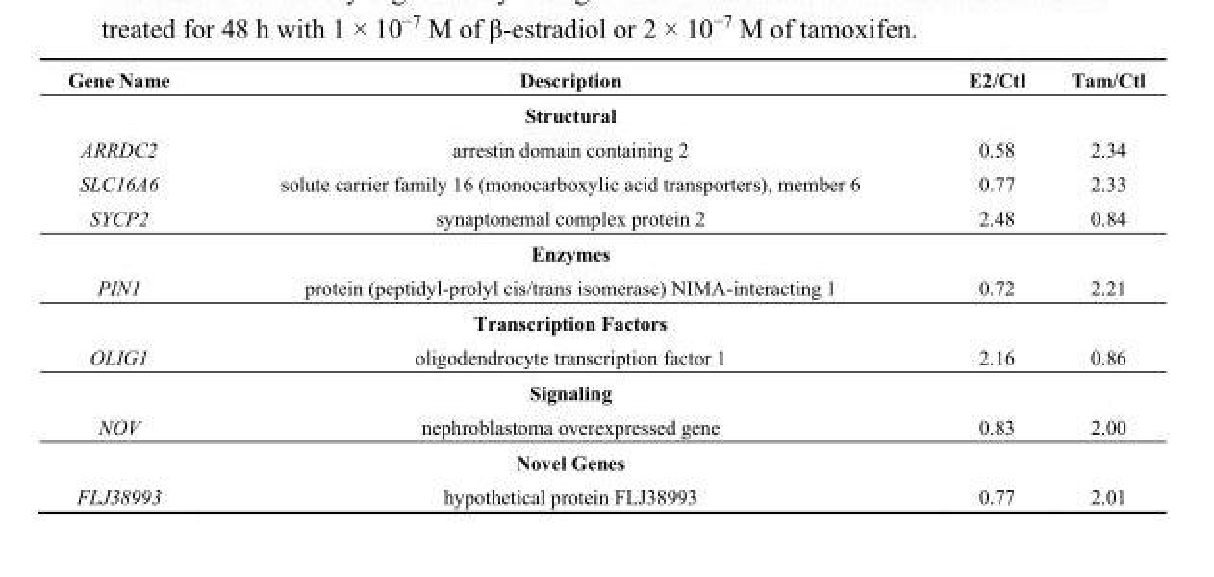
<table><thead><tr><td>Gene Name</td><td>Description</td><td>E2/Ctl</td><td>Tam/Ctl</td></tr></thead><tbody><tr><td></td><td>Structural</td><td></td><td></td></tr><tr><td>ARRDC2</td><td>arrestin domain containing 2</td><td>0.58</td><td>2.34</td></tr><tr><td>SLC16A6</td><td>solute carrier family 16 (monocarboxylic acid transporters), member 6</td><td>0.77</td><td>2.33</td></tr><tr><td rowspan="2">SYCP2</td><td>synaptonemal complex protein 2</td><td>2.48</td><td>0.84</td></tr><tr><td>Enzymes</td><td></td><td></td></tr><tr><td rowspan="2">PIN1</td><td>protein (peptidyl-prolyl cis/trans isomerase) NIMA-interacting 1</td><td>0.72</td><td>2.21</td></tr><tr><td>Transcription Factors</td><td></td><td></td></tr><tr><td rowspan="2">OLIG1</td><td>oligodendrocyte transcription factor 1</td><td>2.16</td><td>0.86</td></tr><tr><td>Signaling</td><td></td><td></td></tr><tr><td rowspan="2">NOV</td><td>nephroblastoma overexpressed gene</td><td>0.83</td><td>2.00</td></tr><tr><td>Novel Genes</td><td></td><td></td></tr><tr><td>FLJ38993</td><td>hypothetical protein FLJ38993</td><td>0.77</td><td>2.01</td></tr></tbody></table>